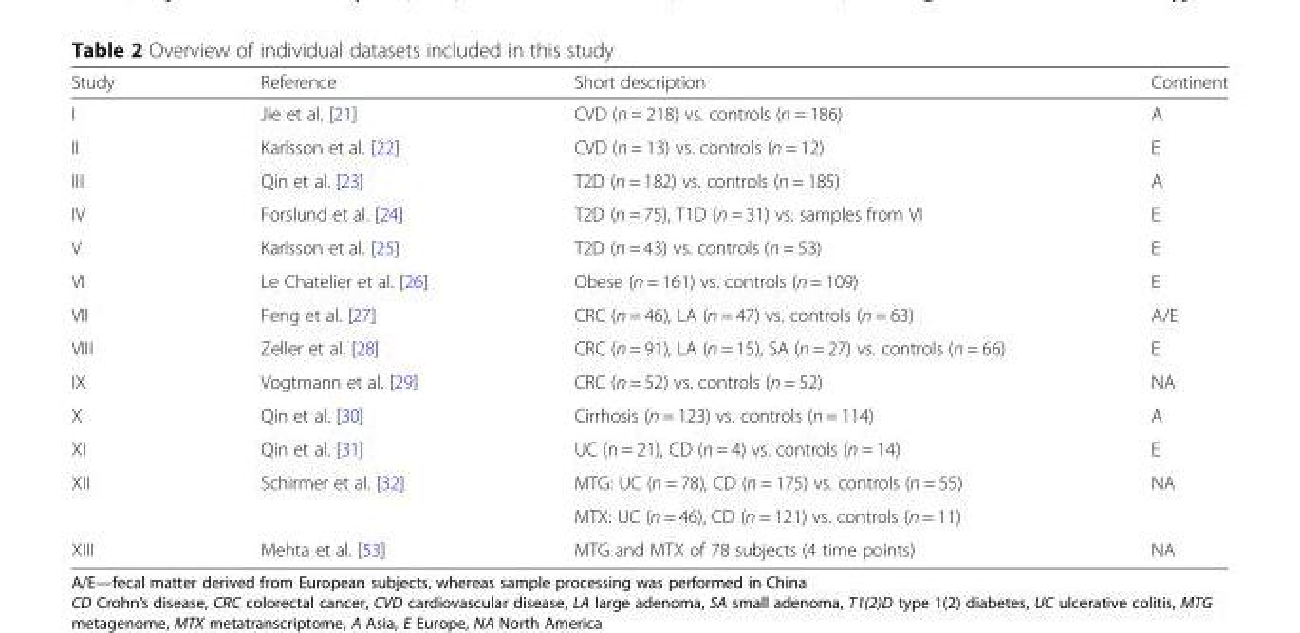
<table><thead><tr><td>Study</td><td>Reference</td><td>Short description</td><td>Continent</td></tr></thead><tbody><tr><td>I</td><td>Jie et al. [21]</td><td>CVD (n = 218) vs. controls (n = 186)</td><td>A</td></tr><tr><td>II</td><td>Karlsson et al. [22]</td><td>CVD (n = 13) vs. controls (n = 12)</td><td>E</td></tr><tr><td>III</td><td>Qin et al. [23]</td><td>T2D (n = 182) vs. controls (n = 185)</td><td>A</td></tr><tr><td>IV</td><td>Forslund et al. [24]</td><td>T2D (n = 75), T1D (n = 31) vs. samples from VI</td><td>E</td></tr><tr><td>V</td><td>Karlsson et al. [25]</td><td>T2D (n = 43) vs. controls (n = 53)</td><td>E</td></tr><tr><td>VI</td><td>Le Chatelier et al. [26]</td><td>Obese (n = 161) vs. controls (n = 109)</td><td>E</td></tr><tr><td>VII</td><td>Feng et al. [27]</td><td>CRC (n = 46), LA (n = 47) vs. controls (n = 63)</td><td>A/E</td></tr><tr><td>VIII</td><td>Zeller et al. [28]</td><td>CRC (n = 91), LA (n = 15), SA (n = 27) vs. controls (n = 66)</td><td>E</td></tr><tr><td>IX</td><td>Vogtmann et al. [29]</td><td>CRC (n = 52) vs. controls (n = 52)</td><td>NA</td></tr><tr><td>X</td><td>Qin et al. [30]</td><td>Cirrhosis (n = 123) vs. controls (n = 114)</td><td>A</td></tr><tr><td>XI</td><td>Qin et al. [31]</td><td>UC (n = 21), CD (n = 4) vs. controls (n = 14)</td><td>E</td></tr><tr><td rowspan="2">XII</td><td rowspan="2">Schirmer et al. [32]</td><td>MTG: UC (n = 78), CD (n = 175) vs. controls (n = 55)</td><td rowspan="2">NA</td></tr><tr><td>MTX: UC (n = 46), CD (n = 121) vs. controls (n = 11)</td></tr><tr><td>XIII</td><td>Mehta et al. [53]</td><td>MTG and MTX of 78 subjects (4 time points)</td><td>NA</td></tr></tbody></table>